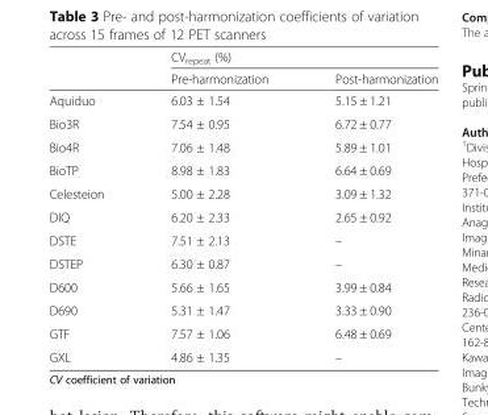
<table><thead><tr><td rowspan="2"></td><td colspan="2">CV<sub>repeat</sub> (%)</td></tr><tr><td>Pre-harmonization</td><td>Post-harmonization</td></tr></thead><tbody><tr><td>Aquiduo</td><td>6.03 ± 1.54</td><td>5.15 ± 1.21</td></tr><tr><td>Bio3R</td><td>7.54 ± 0.95</td><td>6.72 ± 0.77</td></tr><tr><td>Bio4R</td><td>7.06 ± 1.48</td><td>5.89 ± 1.01</td></tr><tr><td>BioTP</td><td>8.98 ± 1.83</td><td>6.64 ± 0.69</td></tr><tr><td>Celesteion</td><td>5.00 ± 2.28</td><td>3.09 ± 1.32</td></tr><tr><td>DIQ</td><td>6.20 ± 2.33</td><td>2.65 ± 0.92</td></tr><tr><td>DSTE</td><td>7.51 ± 2.13</td><td>–</td></tr><tr><td>DSTEP</td><td>6.30 ± 0.87</td><td>–</td></tr><tr><td>D600</td><td>5.66 ± 1.65</td><td>3.99 ± 0.84</td></tr><tr><td>D690</td><td>5.31 ± 1.47</td><td>3.33 ± 0.90</td></tr><tr><td>GTF</td><td>7.57 ± 1.06</td><td>6.48 ± 0.69</td></tr><tr><td>GXL</td><td>4.86 ± 1.35</td><td>–</td></tr></tbody></table>